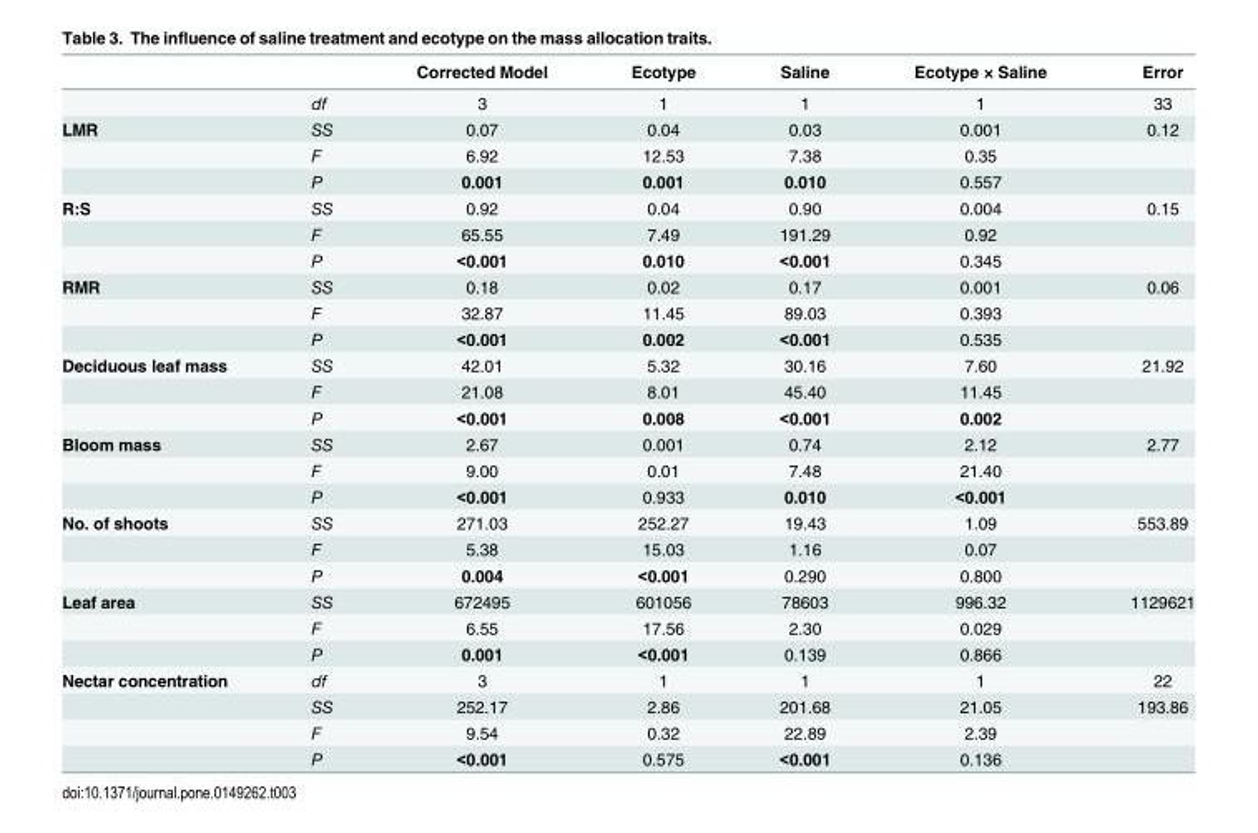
<table><thead><tr><td></td><td></td><td>Corrected Model</td><td>Ecotype</td><td>Saline</td><td>Ecotype × Saline</td><td>Error</td></tr></thead><tbody><tr><td></td><td>df</td><td>3</td><td>1</td><td>1</td><td>1</td><td>33</td></tr><tr><td rowspan="3">LMR</td><td>SS</td><td>0.07</td><td>0.04</td><td>0.03</td><td>0.001</td><td>0.12</td></tr><tr><td>F</td><td>6.92</td><td>12.53</td><td>7.38</td><td>0.35</td><td></td></tr><tr><td>P</td><td>0.001</td><td>0.001</td><td>0.010</td><td>0.557</td><td></td></tr><tr><td rowspan="3">R:S</td><td>SS</td><td>0.92</td><td>0.04</td><td>0.90</td><td>0.004</td><td>0.15</td></tr><tr><td>F</td><td>65.55</td><td>7.49</td><td>191.29</td><td>0.92</td><td></td></tr><tr><td>P</td><td>&lt;0.001</td><td>0.010</td><td>&lt;0.001</td><td>0.345</td><td></td></tr><tr><td rowspan="3">RMR</td><td>SS</td><td>0.18</td><td>0.02</td><td>0.17</td><td>0.001</td><td>0.06</td></tr><tr><td>F</td><td>32.87</td><td>11.45</td><td>89.03</td><td>0.393</td><td></td></tr><tr><td>P</td><td>&lt;0.001</td><td>0.002</td><td>&lt;0.001</td><td>0.535</td><td></td></tr><tr><td rowspan="3">Deciduous leaf mass</td><td>SS</td><td>42.01</td><td>5.32</td><td>30.16</td><td>7.60</td><td>21.92</td></tr><tr><td>F</td><td>21.08</td><td>8.01</td><td>45.40</td><td>11.45</td><td></td></tr><tr><td>P</td><td>&lt;0.001</td><td>0.008</td><td>&lt;0.001</td><td>0.002</td><td></td></tr><tr><td rowspan="3">Bloom mass</td><td>SS</td><td>2.67</td><td>0.001</td><td>0.74</td><td>2.12</td><td>2.77</td></tr><tr><td>F</td><td>9.00</td><td>0.01</td><td>7.48</td><td>21.40</td><td></td></tr><tr><td>P</td><td>&lt;0.001</td><td>0.933</td><td>0.010</td><td>&lt;0.001</td><td></td></tr><tr><td rowspan="3">No. of shoots</td><td>SS</td><td>271.03</td><td>252.27</td><td>19.43</td><td>1.09</td><td>553.89</td></tr><tr><td>F</td><td>5.38</td><td>15.03</td><td>1.16</td><td>0.07</td><td></td></tr><tr><td>P</td><td>0.004</td><td>&lt;0.001</td><td>0.290</td><td>0.800</td><td></td></tr><tr><td rowspan="3">Leaf area</td><td>SS</td><td>672495</td><td>601056</td><td>78603</td><td>996.32</td><td>1129621</td></tr><tr><td>F</td><td>6.55</td><td>17.56</td><td>2.30</td><td>0.029</td><td></td></tr><tr><td>P</td><td>0.001</td><td>&lt;0.001</td><td>0.139</td><td>0.866</td><td></td></tr><tr><td rowspan="4">Nectar concentration</td><td>df</td><td>3</td><td>1</td><td>1</td><td>1</td><td>22</td></tr><tr><td>SS</td><td>252.17</td><td>2.86</td><td>201.68</td><td>21.05</td><td>193.86</td></tr><tr><td>F</td><td>9.54</td><td>0.32</td><td>22.89</td><td>2.39</td><td></td></tr><tr><td>P</td><td>&lt;0.001</td><td>0.575</td><td>&lt;0.001</td><td>0.136</td><td></td></tr></tbody></table>